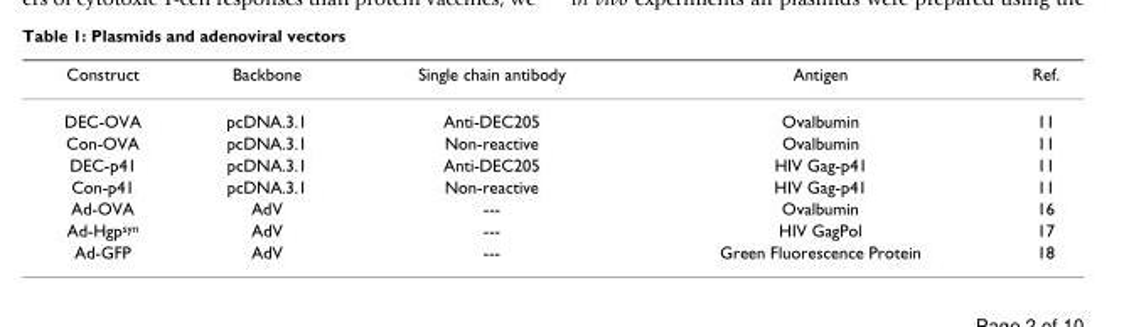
<table><thead><tr><td>Construct</td><td>Backbone</td><td>Single chain antibody</td><td>Antigen</td><td>Ref.</td></tr></thead><tbody><tr><td>DEC-OVA</td><td>pcDNA.3.1</td><td>Anti-DEC205</td><td>Ovalbumin</td><td>11</td></tr><tr><td>Con-OVA</td><td>pcDNA.3.1</td><td>Non-reactive</td><td>Ovalbumin</td><td>11</td></tr><tr><td>DEC-p41</td><td>pcDNA.3.1</td><td>Anti-DEC205</td><td>HIV Gag-p41</td><td>11</td></tr><tr><td>Con-p41</td><td>pcDNA.3.1</td><td>Non-reactive</td><td>HIV Gag-p41</td><td>11</td></tr><tr><td>Ad-OVA</td><td>AdV</td><td>---</td><td>Ovalbumin</td><td>16</td></tr><tr><td>Ad-Hgp<sup>syn</sup></td><td>AdV</td><td>---</td><td>HIV GagPol</td><td>17</td></tr><tr><td>Ad-GFP</td><td>AdV</td><td>---</td><td>Green Fluorescence Protein</td><td>18</td></tr></tbody></table>